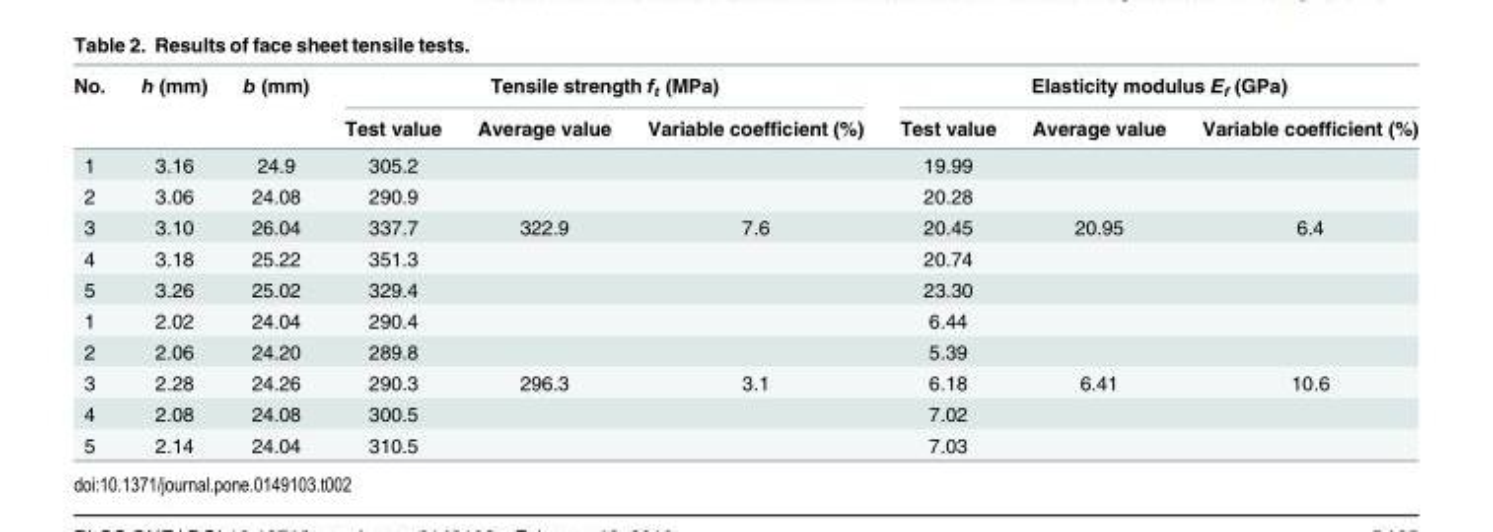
<table><thead><tr><td rowspan="2">No.</td><td rowspan="2">h (mm)</td><td rowspan="2">b (mm)</td><td colspan="3">Tensile strength f<sub>t</sub> (MPa)</td><td colspan="3">Elasticity modulus E<sub>f</sub> (GPa)</td></tr><tr><td>Test value</td><td>Average value</td><td>Variable coefficient (%)</td><td>Test value</td><td>Average value</td><td>Variable coefficient (%)</td></tr></thead><tbody><tr><td>1</td><td>3.16</td><td>24.9</td><td>305.2</td><td></td><td></td><td>19.99</td><td></td><td></td></tr><tr><td>2</td><td>3.06</td><td>24.08</td><td>290.9</td><td></td><td></td><td>20.28</td><td></td><td></td></tr><tr><td>3</td><td>3.10</td><td>26.04</td><td>337.7</td><td>322.9</td><td>7.6</td><td>20.45</td><td>20.95</td><td>6.4</td></tr><tr><td>4</td><td>3.18</td><td>25.22</td><td>351.3</td><td></td><td></td><td>20.74</td><td></td><td></td></tr><tr><td>5</td><td>3.26</td><td>25.02</td><td>329.4</td><td></td><td></td><td>23.30</td><td></td><td></td></tr><tr><td>1</td><td>2.02</td><td>24.04</td><td>290.4</td><td></td><td></td><td>6.44</td><td></td><td></td></tr><tr><td>2</td><td>2.06</td><td>24.20</td><td>289.8</td><td></td><td></td><td>5.39</td><td></td><td></td></tr><tr><td>3</td><td>2.28</td><td>24.26</td><td>290.3</td><td>296.3</td><td>3.1</td><td>6.18</td><td>6.41</td><td>10.6</td></tr><tr><td>4</td><td>2.08</td><td>24.08</td><td>300.5</td><td></td><td></td><td>7.02</td><td></td><td></td></tr><tr><td>5</td><td>2.14</td><td>24.04</td><td>310.5</td><td></td><td></td><td>7.03</td><td></td><td></td></tr></tbody></table>